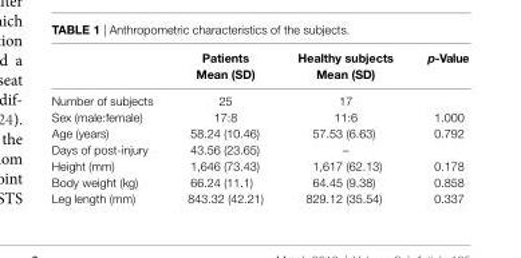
<table><thead><tr><td></td><td>Patients Mean (sD)</td><td>healthy subjects Mean (sD)</td><td>p-Value</td></tr></thead><tbody><tr><td>Number of subjects</td><td>25</td><td>17</td><td></td></tr><tr><td>Sex (male:female)</td><td>17:8</td><td>11:6</td><td>1.000</td></tr><tr><td>Age (years)</td><td>58.24 (10.46)</td><td>57.53 (6.63)</td><td>0.792</td></tr><tr><td>Days of post-injury</td><td>43.56 (23.65)</td><td>–</td><td></td></tr><tr><td>Height (mm)</td><td>1,646 (73.43)</td><td>1,617 (62.13)</td><td>0.178</td></tr><tr><td>Body weight (kg)</td><td>66.24 (11.1)</td><td>64.45 (9.38)</td><td>0.858</td></tr><tr><td>Leg length (mm)</td><td>843.32 (42.21)</td><td>829.12 (35.54)</td><td>0.337</td></tr></tbody></table>